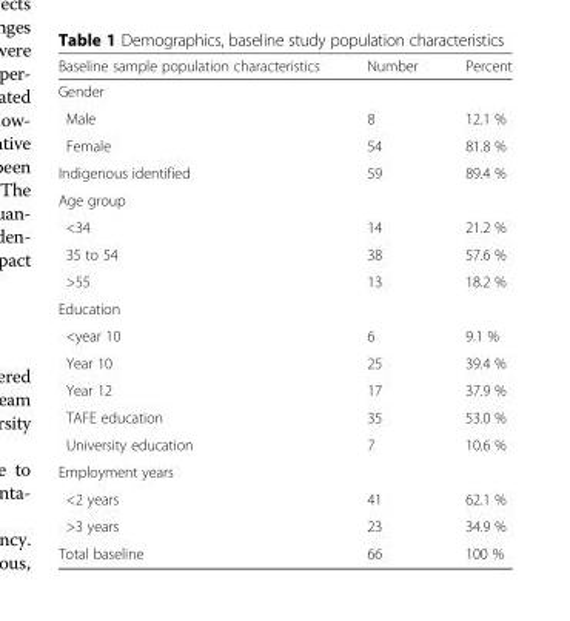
<table><thead><tr><td>Baseline sample population characteristics</td><td>Number</td><td>Percent</td></tr></thead><tbody><tr><td colspan="3">Gender</td></tr><tr><td>Male</td><td>8</td><td>12.1 %</td></tr><tr><td>Female</td><td>54</td><td>81.8 %</td></tr><tr><td>Indigenous identified</td><td>59</td><td>89.4 %</td></tr><tr><td colspan="3">Age group</td></tr><tr><td>&lt;34</td><td>14</td><td>21.2 %</td></tr><tr><td>35 to 54</td><td>38</td><td>57.6 %</td></tr><tr><td>&gt;55</td><td>13</td><td>18.2 %</td></tr><tr><td colspan="3">Education</td></tr><tr><td>&lt;year 10</td><td>6</td><td>9.1 %</td></tr><tr><td>Year 10</td><td>25</td><td>39.4 %</td></tr><tr><td>Year 12</td><td>17</td><td>37.9 %</td></tr><tr><td>TAFE education</td><td>35</td><td>53.0 %</td></tr><tr><td>University education</td><td>7</td><td>10.6 %</td></tr><tr><td colspan="3">Employment years</td></tr><tr><td>&lt;2 years</td><td>41</td><td>62.1 %</td></tr><tr><td>&gt;3 years</td><td>23</td><td>34.9 %</td></tr><tr><td>Total baseline</td><td>66</td><td>100 %</td></tr></tbody></table>